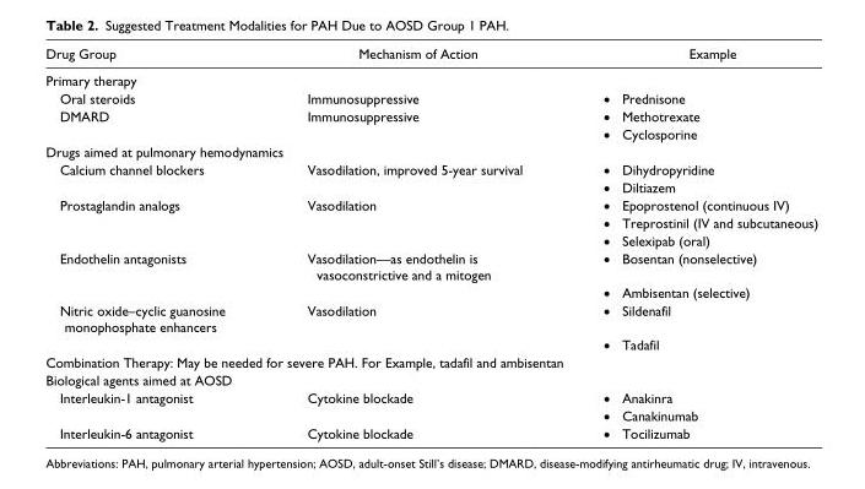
<table><thead><tr><td>Drug Group</td><td>Mechanism of Action</td><td>Example</td></tr></thead><tbody><tr><td colspan="3">Primary therapy</td></tr><tr><td>Oral steroids</td><td>Immunosuppressive</td><td>•• Prednisone</td></tr><tr><td rowspan="2">DMARD</td><td>Immunosuppressive</td><td>•• Methotrexate</td></tr><tr><td></td><td>•• Cyclosporine</td></tr><tr><td colspan="3">Drugs aimed at pulmonary hemodynamics</td></tr><tr><td rowspan="2">Calcium channel blockers</td><td>Vasodilation, improved 5-year survival</td><td>•• Dihydropyridine</td></tr><tr><td></td><td>•• Diltiazem</td></tr><tr><td rowspan="3">Prostaglandin analogs</td><td>Vasodilation</td><td>•• Epoprostenol (continuous IV)</td></tr><tr><td></td><td>•• Treprostinil (IV and subcutaneous)</td></tr><tr><td></td><td>•• Selexipab (oral)</td></tr><tr><td rowspan="2">Endothelin antagonists</td><td>Vasodilation—as endothelin is vasoconstrictive and a mitogen</td><td>•• Bosentan (nonselective)</td></tr><tr><td></td><td>•• Ambisentan (selective)</td></tr><tr><td rowspan="2">Nitric oxide–cyclic guanosine monophosphate enhancers</td><td>Vasodilation</td><td>•• Sildenafil</td></tr><tr><td></td><td>•• Tadafil</td></tr><tr><td colspan="3">Combination Therapy: May be needed for severe PAH. For Example, tadafil and ambisentan</td></tr><tr><td colspan="3">Biological agents aimed at AOSD</td></tr><tr><td rowspan="2">Interleukin-1 antagonist</td><td>Cytokine blockade</td><td>•• Anakinra</td></tr><tr><td></td><td>•• Canakinumab</td></tr><tr><td>Interleukin-6 antagonist</td><td>Cytokine blockade</td><td>•• Tocilizumab</td></tr></tbody></table>